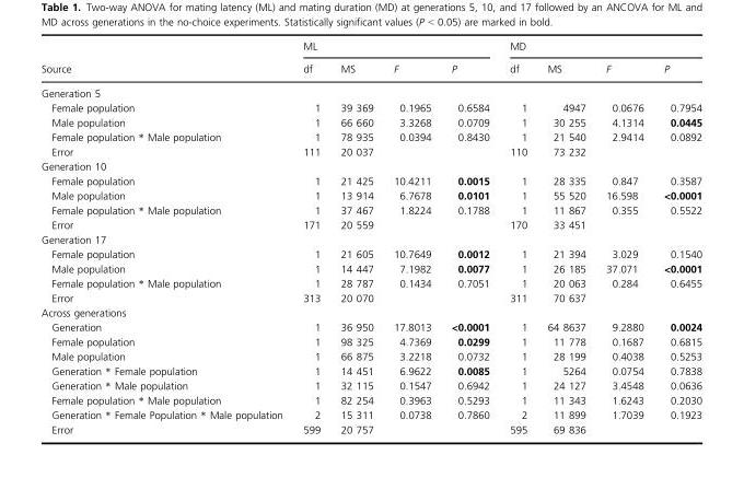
<table><thead><tr><td rowspan="2">Source</td><td colspan="4">ML</td><td colspan="4">MD</td></tr><tr><td>df</td><td>MS</td><td>F</td><td>P</td><td>df</td><td>MS</td><td>F</td><td>P</td></tr></thead><tbody><tr><td colspan="9">Generation 5</td></tr><tr><td>Female population</td><td>1</td><td>39 369</td><td>0.1965</td><td>0.6584</td><td>1</td><td>4947</td><td>0.0676</td><td>0.7954</td></tr><tr><td>Male population</td><td>1</td><td>66 660</td><td>3.3268</td><td>0.0709</td><td>1</td><td>30 255</td><td>4.1314</td><td>0.0445</td></tr><tr><td>Female population * Male population</td><td>1</td><td>78 935</td><td>0.0394</td><td>0.8430</td><td>1</td><td>21 540</td><td>2.9414</td><td>0.0892</td></tr><tr><td>Error</td><td>111</td><td>20 037</td><td></td><td></td><td>110</td><td>73 232</td><td></td><td></td></tr><tr><td colspan="9">Generation 10</td></tr><tr><td>Female population</td><td>1</td><td>21 425</td><td>10.4211</td><td>0.0015</td><td>1</td><td>28 335</td><td>0.847</td><td>0.3587</td></tr><tr><td>Male population</td><td>1</td><td>13 914</td><td>6.7678</td><td>0.0101</td><td>1</td><td>55 520</td><td>16.598</td><td>&lt;0.0001</td></tr><tr><td>Female population * Male population</td><td>1</td><td>37 467</td><td>1.8224</td><td>0.1788</td><td>1</td><td>11 867</td><td>0.355</td><td>0.5522</td></tr><tr><td>Error</td><td>171</td><td>20 559</td><td></td><td></td><td>170</td><td>33 451</td><td></td><td></td></tr><tr><td colspan="9">Generation 17</td></tr><tr><td>Female population</td><td>1</td><td>21 605</td><td>10.7649</td><td>0.0012</td><td>1</td><td>21 394</td><td>3.029</td><td>0.1540</td></tr><tr><td>Male population</td><td>1</td><td>14 447</td><td>7.1982</td><td>0.0077</td><td>1</td><td>26 185</td><td>37.071</td><td>&lt;0.0001</td></tr><tr><td>Female population * Male population</td><td>1</td><td>28 787</td><td>0.1434</td><td>0.7051</td><td>1</td><td>20 063</td><td>0.284</td><td>0.6455</td></tr><tr><td>Error</td><td>313</td><td>20 070</td><td></td><td></td><td>311</td><td>70 637</td><td></td><td></td></tr><tr><td colspan="9">Across generations</td></tr><tr><td>Generation</td><td>1</td><td>36 950</td><td>17.8013</td><td>&lt;0.0001</td><td>1</td><td>64 8637</td><td>9.2880</td><td>0.0024</td></tr><tr><td>Female population</td><td>1</td><td>98 325</td><td>4.7369</td><td>0.0299</td><td>1</td><td>11 778</td><td>0.1687</td><td>0.6815</td></tr><tr><td>Male population</td><td>1</td><td>66 875</td><td>3.2218</td><td>0.0732</td><td>1</td><td>28 199</td><td>0.4038</td><td>0.5253</td></tr><tr><td>Generation * Female population</td><td>1</td><td>14 451</td><td>6.9622</td><td>0.0085</td><td>1</td><td>5264</td><td>0.0754</td><td>0.7838</td></tr><tr><td>Generation * Male population</td><td>1</td><td>32 115</td><td>0.1547</td><td>0.6942</td><td>1</td><td>24 127</td><td>3.4548</td><td>0.0636</td></tr><tr><td>Female population * Male population</td><td>1</td><td>82 254</td><td>0.3963</td><td>0.5293</td><td>1</td><td>11 343</td><td>1.6243</td><td>0.2030</td></tr><tr><td>Generation * Female Population * Male population</td><td>2</td><td>15 311</td><td>0.0738</td><td>0.7860</td><td>2</td><td>11 899</td><td>1.7039</td><td>0.1923</td></tr><tr><td>Error</td><td>599</td><td>20 757</td><td></td><td></td><td>595</td><td>69 836</td><td></td><td></td></tr></tbody></table>